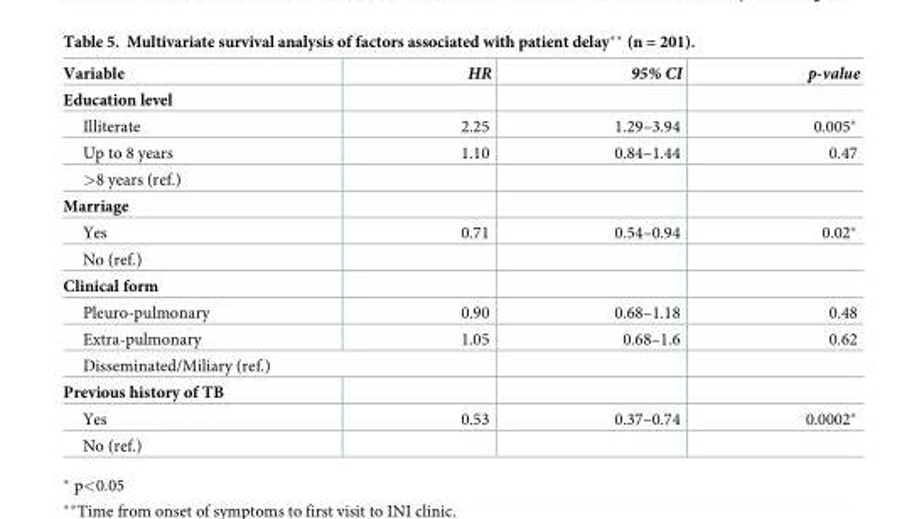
<table><thead><tr><td>Variable</td><td>HR</td><td>95% CI</td><td>p-value</td></tr></thead><tbody><tr><td colspan="4">Education level</td></tr><tr><td>Illiterate</td><td>2.25</td><td>1.29–3.94</td><td>0.005*</td></tr><tr><td>Up to 8 years</td><td>1.10</td><td>0.84–1.44</td><td>0.47</td></tr><tr><td colspan="4">&gt;8 years (ref.)</td></tr><tr><td colspan="4">Marriage</td></tr><tr><td>Yes</td><td>0.71</td><td>0.54–0.94</td><td>0.02*</td></tr><tr><td colspan="4">No (ref.)</td></tr><tr><td colspan="4">Clinical form</td></tr><tr><td>Pleuro-pulmonary</td><td>0.90</td><td>0.68–1.18</td><td>0.48</td></tr><tr><td>Extra-pulmonary</td><td>1.05</td><td>0.68–1.6</td><td>0.62</td></tr><tr><td colspan="4">Disseminated/Miliary (ref.)</td></tr><tr><td colspan="4">Previous history of TB</td></tr><tr><td>Yes</td><td>0.53</td><td>0.37–0.74</td><td>0.0002*</td></tr><tr><td>No (ref.)</td><td></td><td></td><td></td></tr></tbody></table>